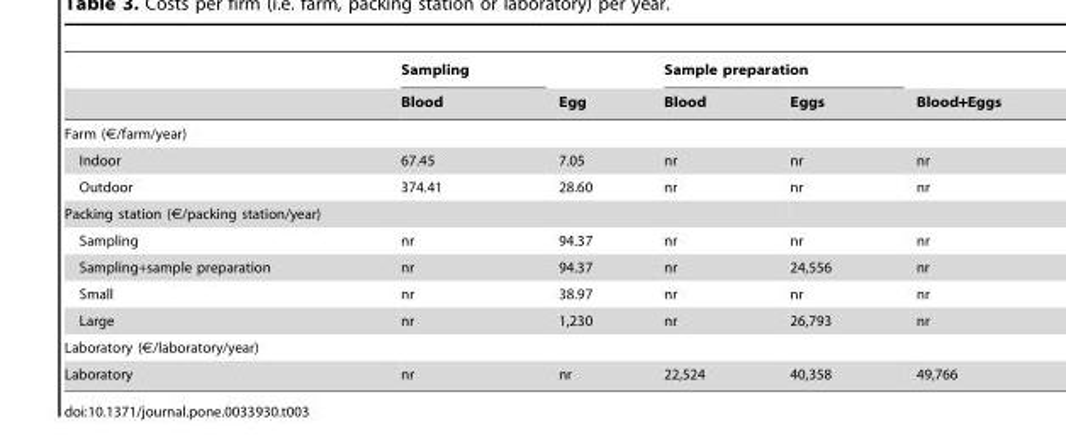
<table><thead><tr><td rowspan="2"></td><td rowspan="2">Sampling Blood</td><td rowspan="2">Egg</td><td colspan="2">Sample preparation</td><td rowspan="2">Blood+Eggs</td></tr><tr><td>Blood</td><td>Eggs</td></tr></thead><tbody><tr><td colspan="6">Farm (€/farm/year)</td></tr><tr><td>Indoor</td><td>67.45</td><td>7.05</td><td>nr</td><td>nr</td><td>nr</td></tr><tr><td>Outdoor</td><td>374.41</td><td>28.60</td><td>nr</td><td>nr</td><td>nr</td></tr><tr><td colspan="6">Packing station (€/packing station/year)</td></tr><tr><td>Sampling</td><td>nr</td><td>94.37</td><td>nr</td><td>nr</td><td>nr</td></tr><tr><td>Sampling+sample preparation</td><td>nr</td><td>94.37</td><td>nr</td><td>24,556</td><td>nr</td></tr><tr><td>Small</td><td>nr</td><td>38.97</td><td>nr</td><td>nr</td><td>nr</td></tr><tr><td>Large</td><td>nr</td><td>1,230</td><td>nr</td><td>26,793</td><td>nr</td></tr><tr><td colspan="6">Laboratory (€/laboratory/year)</td></tr><tr><td>Laboratory</td><td>nr</td><td>nr</td><td>22,524</td><td>40,358</td><td>49,766</td></tr></tbody></table>